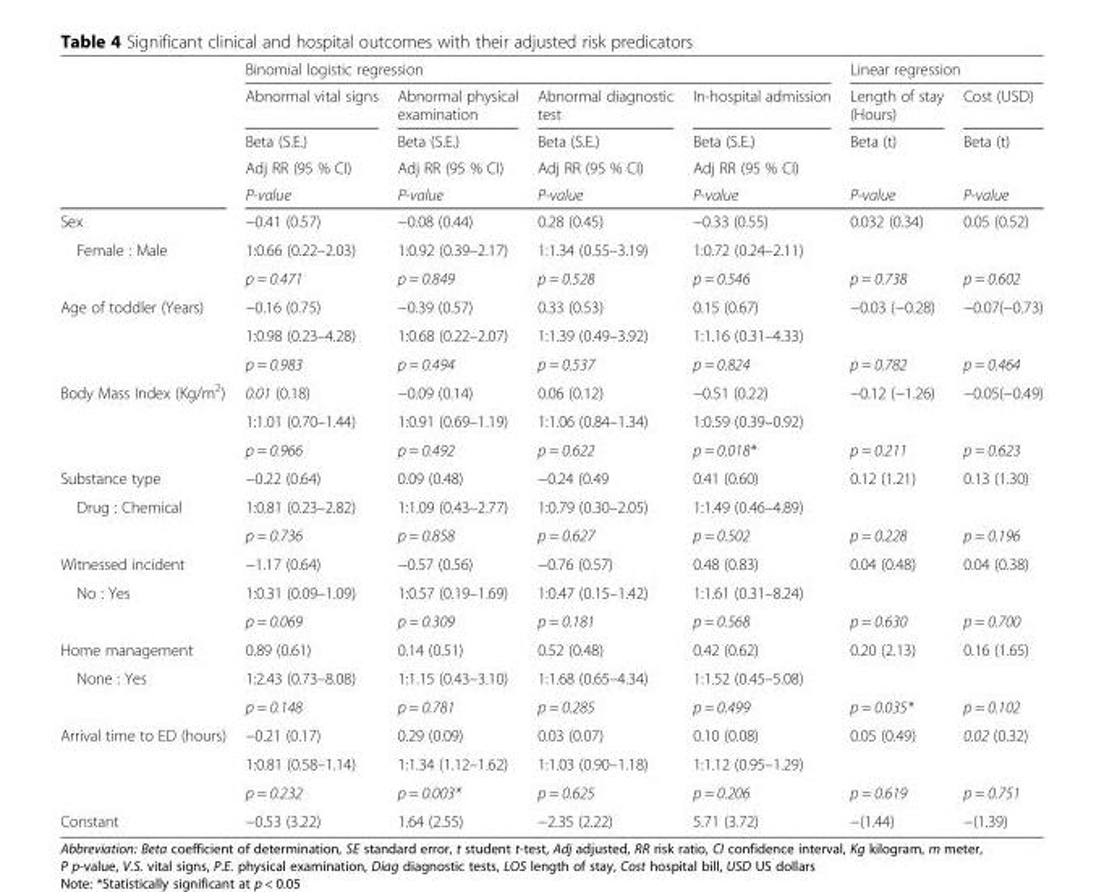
<table><thead><tr><td rowspan="5"></td><td colspan="4">Binomial logistic regression</td><td colspan="2">Linear regression</td></tr><tr><td rowspan="4">Abnormal vital signs Beta (S.E.) Adj RR (95 % CI) P-value</td><td rowspan="4">Abnormal physical examination Beta (S.E.) Adj RR (95 % CI) P-value</td><td rowspan="4">Abnormal diagnostic test Beta (S.E.) Adj RR (95 % CI) P-value</td><td rowspan="4">In-hospital admission Beta (S.E.) Adj RR (95 % CI) P-value</td><td rowspan="4">Length of stay (Hours) Beta (t) P-value</td><td rowspan="4">Cost (USD) Beta (t) P-value</td></tr><tr></tr><tr></tr><tr></tr></thead><tbody><tr><td>Sex</td><td>−0.41 (0.57)</td><td>−0.08 (0.44)</td><td>0.28 (0.45)</td><td>−0.33 (0.55)</td><td>0.032 (0.34)</td><td>0.05 (0.52)</td></tr><tr><td rowspan="2">Female : Male</td><td>1:0.66 (0.22–2.03)</td><td>1:0.92 (0.39–2.17)</td><td>1:1.34 (0.55–3.19)</td><td>1:0.72 (0.24–2.11)</td><td></td><td></td></tr><tr><td>p = 0.471</td><td>p = 0.849</td><td>p = 0.528</td><td>p = 0.546</td><td>p = 0.738</td><td>p = 0.602</td></tr><tr><td rowspan="3">Age of toddler (Years)</td><td>−0.16 (0.75)</td><td>−0.39 (0.57)</td><td>0.33 (0.53)</td><td>0.15 (0.67)</td><td>−0.03 (−0.28)</td><td>−0.07(−0.73)</td></tr><tr><td>1:0.98 (0.23–4.28)</td><td>1:0.68 (0.22–2.07)</td><td>1:1.39 (0.49–3.92)</td><td>1:1.16 (0.31–4.33)</td><td></td><td></td></tr><tr><td>p = 0.983</td><td>p = 0.494</td><td>p = 0.537</td><td>p = 0.824</td><td>p = 0.782</td><td>p = 0.464</td></tr><tr><td rowspan="3">Body Mass Index (Kg/m<sup>2</sup>)</td><td>0.01 (0.18)</td><td>−0.09 (0.14)</td><td>0.06 (0.12)</td><td>−0.51 (0.22)</td><td>−0.12 (−1.26)</td><td>−0.05(−0.49)</td></tr><tr><td>1:1.01 (0.70–1.44)</td><td>1:0.91 (0.69–1.19)</td><td>1:1.06 (0.84–1.34)</td><td>1:0.59 (0.39–0.92)</td><td></td><td></td></tr><tr><td>p = 0.966</td><td>p = 0.492</td><td>p = 0.622</td><td>p = 0.018*</td><td>p = 0.211</td><td>p = 0.623</td></tr><tr><td>Substance type</td><td>−0.22 (0.64)</td><td>0.09 (0.48)</td><td>−0.24 (0.49</td><td>0.41 (0.60)</td><td>0.12 (1.21)</td><td>0.13 (1.30)</td></tr><tr><td rowspan="2">Drug : Chemical</td><td>1:0.81 (0.23–2.82)</td><td>1:1.09 (0.43–2.77)</td><td>1:0.79 (0.30–2.05)</td><td>1:1.49 (0.46–4.89)</td><td></td><td></td></tr><tr><td>p = 0.736</td><td>p = 0.858</td><td>p = 0.627</td><td>p = 0.502</td><td>p = 0.228</td><td>p = 0.196</td></tr><tr><td>Witnessed incident</td><td>−1.17 (0.64)</td><td>−0.57 (0.56)</td><td>−0.76 (0.57)</td><td>0.48 (0.83)</td><td>0.04 (0.48)</td><td>0.04 (0.38)</td></tr><tr><td rowspan="2">No : Yes</td><td>1:0.31 (0.09–1.09)</td><td>1:0.57 (0.19–1.69)</td><td>1:0.47 (0.15–1.42)</td><td>1:1.61 (0.31–8.24)</td><td></td><td></td></tr><tr><td>p = 0.069</td><td>p = 0.309</td><td>p = 0.181</td><td>p = 0.568</td><td>p = 0.630</td><td>p = 0.700</td></tr><tr><td>Home management</td><td>0.89 (0.61)</td><td>0.14 (0.51)</td><td>0.52 (0.48)</td><td>0.42 (0.62)</td><td>0.20 (2.13)</td><td>0.16 (1.65)</td></tr><tr><td rowspan="2">None : Yes</td><td>1:2.43 (0.73–8.08)</td><td>1:1.15 (0.43–3.10)</td><td>1:1.68 (0.65–4.34)</td><td>1:1.52 (0.45–5.08)</td><td></td><td></td></tr><tr><td>p = 0.148</td><td>p = 0.781</td><td>p = 0.285</td><td>p = 0.499</td><td>p = 0.035*</td><td>p = 0.102</td></tr><tr><td rowspan="3">Arrival time to ED (hours)</td><td>−0.21 (0.17)</td><td>0.29 (0.09)</td><td>0.03 (0.07)</td><td>0.10 (0.08)</td><td>0.05 (0.49)</td><td>0.02 (0.32)</td></tr><tr><td>1:0.81 (0.58–1.14)</td><td>1:1.34 (1.12–1.62)</td><td>1:1.03 (0.90–1.18)</td><td>1:1.12 (0.95–1.29)</td><td></td><td></td></tr><tr><td>p = 0.232</td><td>p = 0.003*</td><td>p = 0.625</td><td>p = 0.206</td><td>p = 0.619</td><td>p = 0.751</td></tr><tr><td>Constant</td><td>−0.53 (3.22)</td><td>1.64 (2.55)</td><td>−2.35 (2.22)</td><td>5.71 (3.72)</td><td>−(1.44)</td><td>−(1.39)</td></tr></tbody></table>